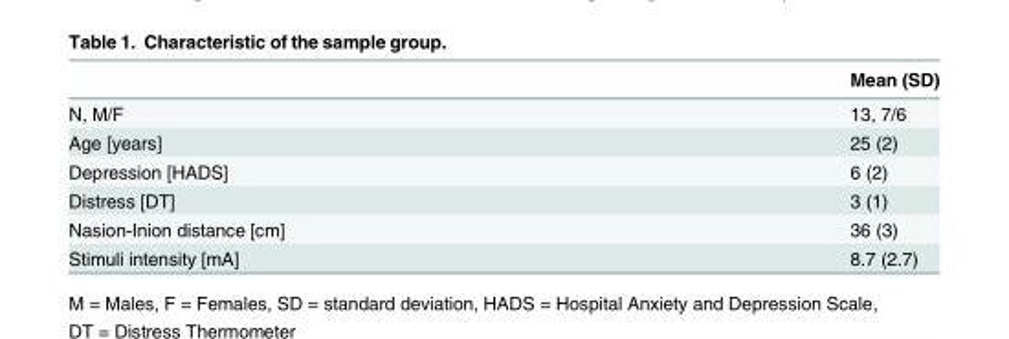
<table><thead><tr><td></td><td>Mean (SD)</td></tr></thead><tbody><tr><td>N, M/F</td><td>13, 7/6</td></tr><tr><td>Age [years]</td><td>25 (2)</td></tr><tr><td>Depression [HADS]</td><td>6 (2)</td></tr><tr><td>Distress [DT]</td><td>3 (1)</td></tr><tr><td>Nasion-Inion distance [cm]</td><td>36 (3)</td></tr><tr><td>Stimuli intensity [mA]</td><td>8.7 (2.7)</td></tr></tbody></table>